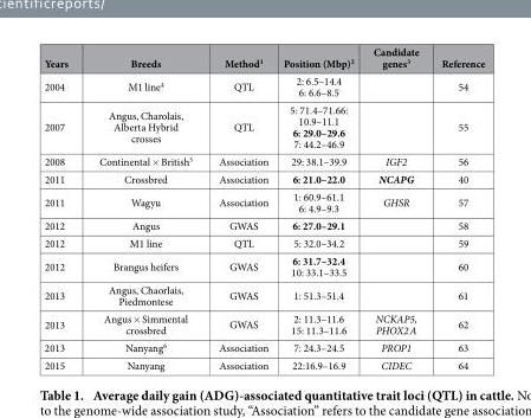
<table><thead><tr><td>Years</td><td>Breeds</td><td>Method<sup>1</sup></td><td>Position (Mbp)<sup>2</sup></td><td>Candidate genes<sup>3</sup></td><td>Reference</td></tr></thead><tbody><tr><td>2004</td><td>M1 line<sup>4</sup></td><td>QTL</td><td>2: 6.5–14.4 6: 6.6–8.5</td><td></td><td>54</td></tr><tr><td>2007</td><td>Angus, Charolais, Alberta Hybrid crosses</td><td>QTL</td><td>5: 71.4–71.66: 10.9–11.1 6: 29.0–29.6 7: 44.2–46.9</td><td></td><td>55</td></tr><tr><td>2008</td><td>Continental × British<sup>5</sup></td><td>Association</td><td>29: 38.1–39.9</td><td>IGF2</td><td>56</td></tr><tr><td>2011</td><td>Crossbred</td><td>Association</td><td>6: 21.0–22.0</td><td>NCAPG</td><td>40</td></tr><tr><td>2011</td><td>Wagyu</td><td>Association</td><td>1: 60.9–61.1 6: 4.9–9.3</td><td>GHSR</td><td>57</td></tr><tr><td>2012</td><td>Angus</td><td>GWAS</td><td>6: 27.0–29.1</td><td></td><td>58</td></tr><tr><td>2012</td><td>M1 line</td><td>QTL</td><td>5: 32.0–34.2</td><td></td><td>59</td></tr><tr><td>2012</td><td>Brangus heifers</td><td>GWAS</td><td>6: 31.7–32.4 10: 33.1–33.5</td><td></td><td>60</td></tr><tr><td>2013</td><td>Angus, Chaorlais, Piedmontese</td><td>GWAS</td><td>1: 51.3–51.4</td><td></td><td>61</td></tr><tr><td>2013</td><td>Angus × Simmental crossbred</td><td>GWAS</td><td>2: 11.3–11.6 15: 11.3–11.6</td><td>NCKAP5, PHOX2 A</td><td>62</td></tr><tr><td>2013</td><td>Nanyang<sup>6</sup></td><td>Association</td><td>7: 24.3–24.5</td><td>PROP1</td><td>63</td></tr><tr><td>2015</td><td>Nanyang</td><td>Association</td><td>22:16.9–16.9</td><td>CIDEC</td><td>64</td></tr></tbody></table>